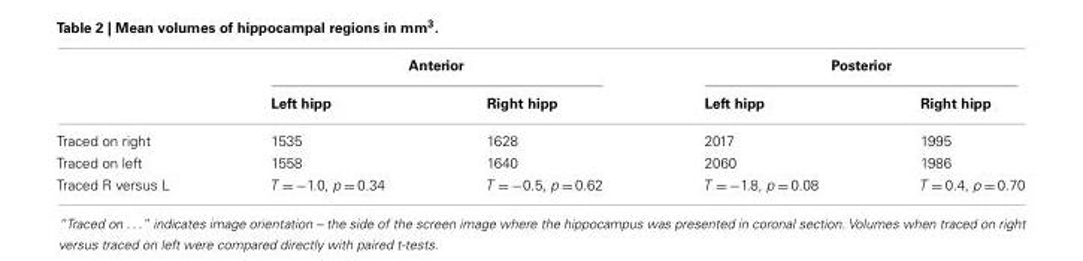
<table><thead><tr><td rowspan="2"></td><td colspan="2">Anterior</td><td colspan="2">Posterior</td></tr><tr><td>Left hipp</td><td>Right hipp</td><td>Left hipp</td><td>Right hipp</td></tr></thead><tbody><tr><td>Traced on right</td><td>1535</td><td>1628</td><td>2017</td><td>1995</td></tr><tr><td>Traced on left</td><td>1558</td><td>1640</td><td>2060</td><td>1986</td></tr><tr><td>Traced R versus L</td><td>T = −1.0, p = 0.34</td><td>T = −0.5, p = 0.62</td><td>T = −1.8, p = 0.08</td><td>T = 0.4, p = 0.70</td></tr></tbody></table>